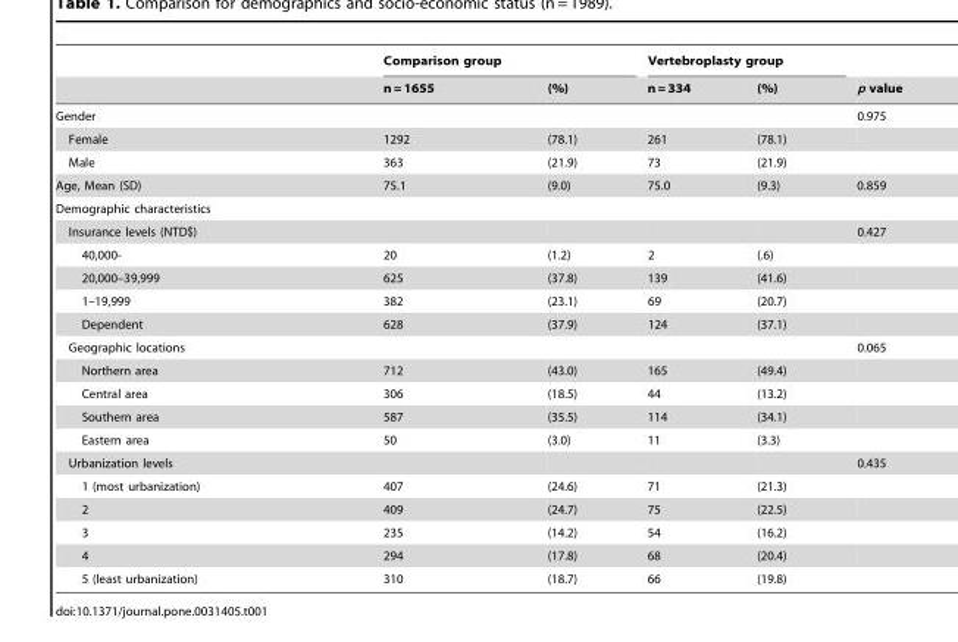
<table><thead><tr><td rowspan="2"></td><td colspan="2">Comparison group</td><td colspan="2">Vertebroplasty group</td><td rowspan="2">p value</td></tr><tr><td>n = 1655</td><td>(%)</td><td>n = 334</td><td>(%)</td></tr></thead><tbody><tr><td>Gender</td><td></td><td></td><td></td><td></td><td>0.975</td></tr><tr><td>Female</td><td>1292</td><td>(78.1)</td><td>261</td><td>(78.1)</td><td></td></tr><tr><td>Male</td><td>363</td><td>(21.9)</td><td>73</td><td>(21.9)</td><td></td></tr><tr><td>Age, Mean (SD)</td><td>75.1</td><td>(9.0)</td><td>75.0</td><td>(9.3)</td><td>0.859</td></tr><tr><td colspan="6">Demographic characteristics</td></tr><tr><td>Insurance levels (NTD$)</td><td></td><td></td><td></td><td></td><td>0.427</td></tr><tr><td>40,000-</td><td>20</td><td>(1.2)</td><td>2</td><td>(.6)</td><td></td></tr><tr><td>20,000–39,999</td><td>625</td><td>(37.8)</td><td>139</td><td>(41.6)</td><td></td></tr><tr><td>1–19,999</td><td>382</td><td>(23.1)</td><td>69</td><td>(20.7)</td><td></td></tr><tr><td>Dependent</td><td>628</td><td>(37.9)</td><td>124</td><td>(37.1)</td><td></td></tr><tr><td>Geographic locations</td><td></td><td></td><td></td><td></td><td>0.065</td></tr><tr><td>Northern area</td><td>712</td><td>(43.0)</td><td>165</td><td>(49.4)</td><td></td></tr><tr><td>Central area</td><td>306</td><td>(18.5)</td><td>44</td><td>(13.2)</td><td></td></tr><tr><td>Southern area</td><td>587</td><td>(35.5)</td><td>114</td><td>(34.1)</td><td></td></tr><tr><td>Eastern area</td><td>50</td><td>(3.0)</td><td>11</td><td>(3.3)</td><td></td></tr><tr><td>Urbanization levels</td><td></td><td></td><td></td><td></td><td>0.435</td></tr><tr><td>1 (most urbanization)</td><td>407</td><td>(24.6)</td><td>71</td><td>(21.3)</td><td></td></tr><tr><td>2</td><td>409</td><td>(24.7)</td><td>75</td><td>(22.5)</td><td></td></tr><tr><td>3</td><td>235</td><td>(14.2)</td><td>54</td><td>(16.2)</td><td></td></tr><tr><td>4</td><td>294</td><td>(17.8)</td><td>68</td><td>(20.4)</td><td></td></tr><tr><td>5 (least urbanization)</td><td>310</td><td>(18.7)</td><td>66</td><td>(19.8)</td><td></td></tr></tbody></table>